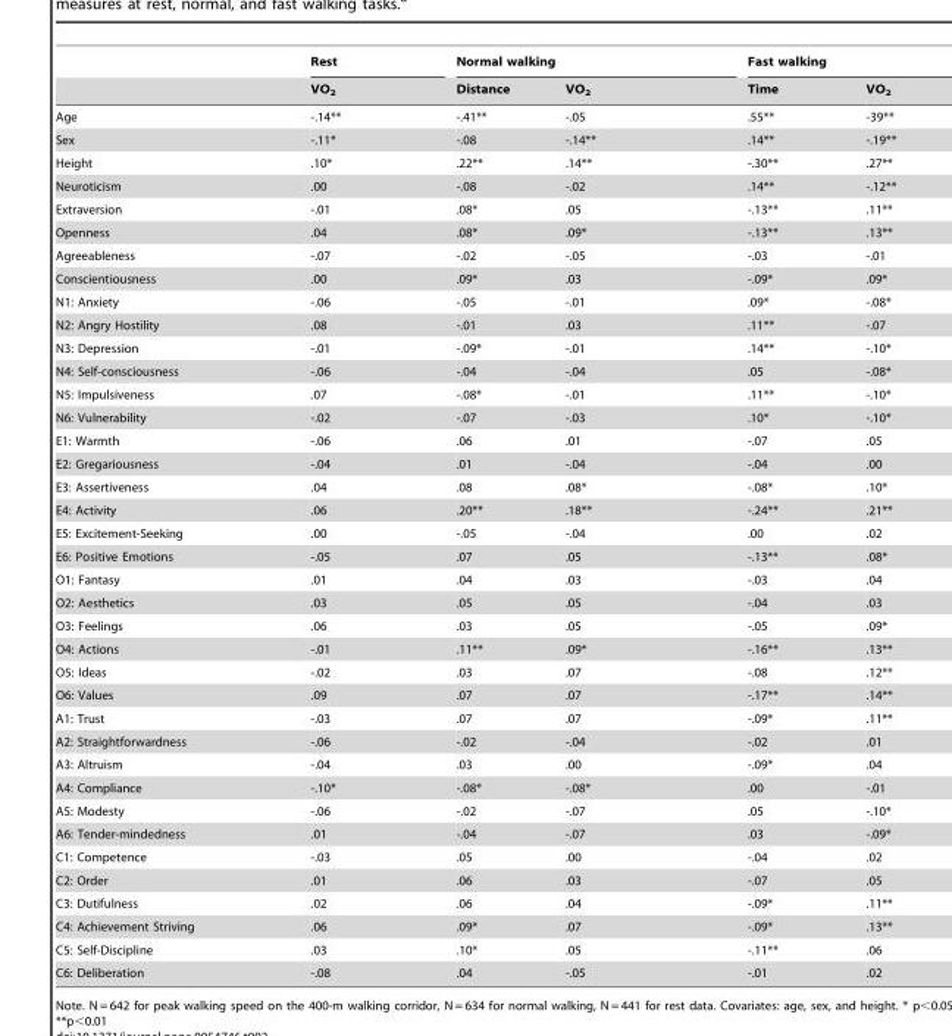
<table><thead><tr><td rowspan="2"></td><td rowspan="2">Rest VO<sub>2</sub></td><td colspan="2">Normal walking</td><td colspan="2">Fast walking</td></tr><tr><td>Distance</td><td>VO<sub>2</sub></td><td>Time</td><td>VO<sub>2</sub></td></tr></thead><tbody><tr><td>Age</td><td>-.14**</td><td>-.41**</td><td>-.05</td><td>.55**</td><td>-39**</td></tr><tr><td>Sex</td><td>-.11*</td><td>-.08</td><td>-.14**</td><td>.14**</td><td>-.19**</td></tr><tr><td>Height</td><td>.10*</td><td>.22**</td><td>.14**</td><td>-.30**</td><td>.27**</td></tr><tr><td>Neuroticism</td><td>.00</td><td>-.08</td><td>-.02</td><td>.14**</td><td>-.12**</td></tr><tr><td>Extraversion</td><td>-.01</td><td>.08*</td><td>.05</td><td>-.13**</td><td>.11**</td></tr><tr><td>Openness</td><td>.04</td><td>.08*</td><td>.09*</td><td>-.13**</td><td>.13**</td></tr><tr><td>Agreeableness</td><td>-.07</td><td>-.02</td><td>-.05</td><td>-.03</td><td>-.01</td></tr><tr><td>Conscientiousness</td><td>.00</td><td>.09*</td><td>.03</td><td>-.09*</td><td>.09*</td></tr><tr><td>N1: Anxiety</td><td>-.06</td><td>-.05</td><td>-.01</td><td>.09*</td><td>-.08*</td></tr><tr><td>N2: Angry Hostility</td><td>.08</td><td>-.01</td><td>.03</td><td>.11**</td><td>-.07</td></tr><tr><td>N3: Depression</td><td>-.01</td><td>-.09*</td><td>-.01</td><td>.14**</td><td>-.10*</td></tr><tr><td>N4: Self-consciousness</td><td>-.06</td><td>-.04</td><td>-.04</td><td>.05</td><td>-.08*</td></tr><tr><td>N5: Impulsiveness</td><td>.07</td><td>-.08*</td><td>-.01</td><td>.11**</td><td>-.10*</td></tr><tr><td>N6: Vulnerability</td><td>-.02</td><td>-.07</td><td>-.03</td><td>.10*</td><td>-.10*</td></tr><tr><td>E1: Warmth</td><td>-.06</td><td>.06</td><td>.01</td><td>-.07</td><td>.05</td></tr><tr><td>E2: Gregariousness</td><td>-.04</td><td>.01</td><td>-.04</td><td>-.04</td><td>.00</td></tr><tr><td>E3: Assertiveness</td><td>.04</td><td>.08</td><td>.08*</td><td>-.08*</td><td>.10*</td></tr><tr><td>E4: Activity</td><td>.06</td><td>.20**</td><td>.18**</td><td>-.24**</td><td>.21**</td></tr><tr><td>E5: Excitement-Seeking</td><td>.00</td><td>-.05</td><td>-.04</td><td>.00</td><td>.02</td></tr><tr><td>E6: Positive Emotions</td><td>-.05</td><td>.07</td><td>.05</td><td>-.13**</td><td>.08*</td></tr><tr><td>O1: Fantasy</td><td>.01</td><td>.04</td><td>.03</td><td>-.03</td><td>.04</td></tr><tr><td>O2: Aesthetics</td><td>.03</td><td>.05</td><td>.05</td><td>-.04</td><td>.03</td></tr><tr><td>O3: Feelings</td><td>.06</td><td>.03</td><td>.05</td><td>-.05</td><td>.09*</td></tr><tr><td>O4: Actions</td><td>-.01</td><td>.11**</td><td>.09*</td><td>-.16**</td><td>.13**</td></tr><tr><td>O5: Ideas</td><td>-.02</td><td>.03</td><td>.07</td><td>-.08</td><td>.12**</td></tr><tr><td>O6: Values</td><td>.09</td><td>.07</td><td>.07</td><td>-.17**</td><td>.14**</td></tr><tr><td>A1: Trust</td><td>-.03</td><td>.07</td><td>.07</td><td>-.09*</td><td>.11**</td></tr><tr><td>A2: Straightforwardness</td><td>-.06</td><td>-.02</td><td>-.04</td><td>-.02</td><td>.01</td></tr><tr><td>A3: Altruism</td><td>-.04</td><td>.03</td><td>.00</td><td>-.09*</td><td>.04</td></tr><tr><td>A4: Compliance</td><td>-.10*</td><td>-.08*</td><td>-.08*</td><td>.00</td><td>-.01</td></tr><tr><td>A5: Modesty</td><td>-.06</td><td>-.02</td><td>-.07</td><td>.05</td><td>-.10*</td></tr><tr><td>A6: Tender-mindedness</td><td>.01</td><td>-.04</td><td>-.07</td><td>.03</td><td>-.09*</td></tr><tr><td>C1: Competence</td><td>-.03</td><td>.05</td><td>.00</td><td>-.04</td><td>.02</td></tr><tr><td>C2: Order</td><td>.01</td><td>.06</td><td>.03</td><td>-.07</td><td>.05</td></tr><tr><td>C3: Dutifulness</td><td>.02</td><td>.06</td><td>.04</td><td>-.09*</td><td>.11**</td></tr><tr><td>C4: Achievement Striving</td><td>.06</td><td>.09*</td><td>.07</td><td>-.09*</td><td>.13**</td></tr><tr><td>C5: Self-Discipline</td><td>.03</td><td>.10*</td><td>.05</td><td>-.11**</td><td>.06</td></tr><tr><td>C6: Deliberation</td><td>-.08</td><td>.04</td><td>-.05</td><td>-.01</td><td>.02</td></tr></tbody></table>